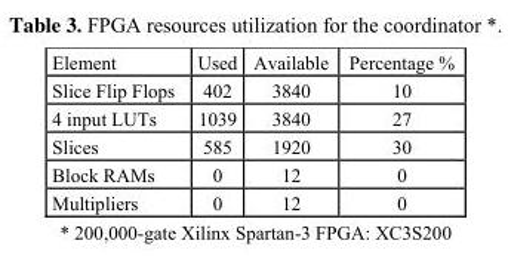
<table><thead><tr><td>Element</td><td>Used</td><td>Available</td><td>Percentage %</td></tr></thead><tbody><tr><td>Slice Flip Flops</td><td>402</td><td>3840</td><td>10</td></tr><tr><td>4 input LUTs</td><td>1039</td><td>3840</td><td>27</td></tr><tr><td>Slices</td><td>585</td><td>1920</td><td>30</td></tr><tr><td>Block RAMs</td><td>0</td><td>12</td><td>0</td></tr><tr><td>Multipliers</td><td>0</td><td>12</td><td>0</td></tr></tbody></table>